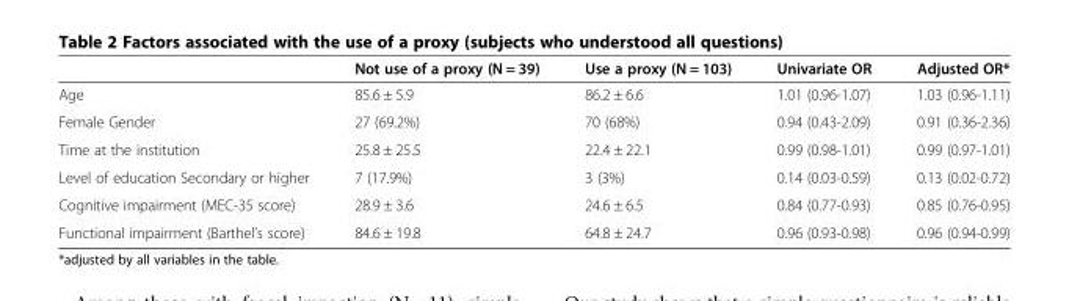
<table><thead><tr><td></td><td>Not use of a proxy (N = 39)</td><td>Use a proxy (N = 103)</td><td>Univariate OR</td><td>Adjusted OR*</td></tr></thead><tbody><tr><td>Age</td><td>85.6 ± 5.9</td><td>86.2 ± 6.6</td><td>1.01 (0.96-1.07)</td><td>1.03 (0.96-1.11)</td></tr><tr><td>Female Gender</td><td>27 (69.2%)</td><td>70 (68%)</td><td>0.94 (0.43-2.09)</td><td>0.91 (0.36-2.36)</td></tr><tr><td>Time at the institution</td><td>25.8 ± 25.5</td><td>22.4 ± 22.1</td><td>0.99 (0.98-1.01)</td><td>0.99 (0.97-1.01)</td></tr><tr><td>Level of education Secondary or higher</td><td>7 (17.9%)</td><td>3 (3%)</td><td>0.14 (0.03-0.59)</td><td>0.13 (0.02-0.72)</td></tr><tr><td>Cognitive impairment (MEC-35 score)</td><td>28.9 ± 3.6</td><td>24.6 ± 6.5</td><td>0.84 (0.77-0.93)</td><td>0.85 (0.76-0.95)</td></tr><tr><td>Functional impairment (Barthel’s score)</td><td>84.6 ± 19.8</td><td>64.8 ± 24.7</td><td>0.96 (0.93-0.98)</td><td>0.96 (0.94-0.99)</td></tr></tbody></table>